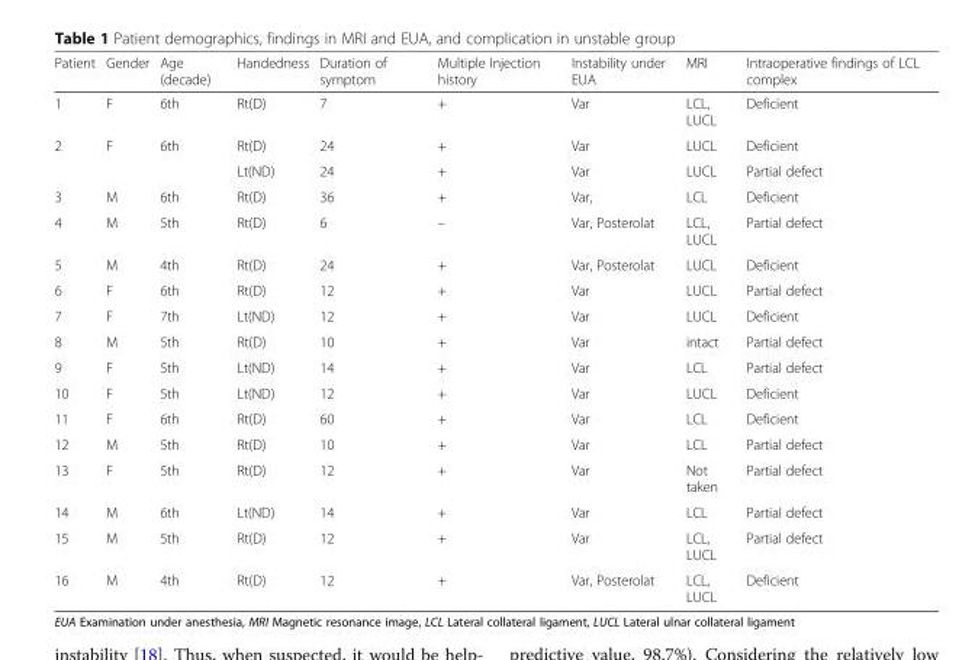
<table><thead><tr><td>Patient</td><td>Gender</td><td>Age (decade)</td><td>Handedness</td><td>Duration of symptom</td><td>Multiple Injection history</td><td>Instability under EUA</td><td>MRI</td><td>Intraoperative findings of LCL complex</td></tr></thead><tbody><tr><td>1</td><td>F</td><td>6th</td><td>Rt(D)</td><td>7</td><td>+</td><td>Var</td><td>LCL, LUCL</td><td>Deficient</td></tr><tr><td rowspan="2">2</td><td rowspan="2">F</td><td rowspan="2">6th</td><td>Rt(D)</td><td>24</td><td>+</td><td>Var</td><td>LUCL</td><td>Deficient</td></tr><tr><td>Lt(ND)</td><td>24</td><td>+</td><td>Var</td><td>LUCL</td><td>Partial defect</td></tr><tr><td>3</td><td>M</td><td>6th</td><td>Rt(D)</td><td>36</td><td>+</td><td>Var,</td><td>LCL</td><td>Deficient</td></tr><tr><td>4</td><td>M</td><td>5th</td><td>Rt(D)</td><td>6</td><td>–</td><td>Var, Posterolat</td><td>LCL, LUCL</td><td>Partial defect</td></tr><tr><td>5</td><td>M</td><td>4th</td><td>Rt(D)</td><td>24</td><td>+</td><td>Var, Posterolat</td><td>LUCL</td><td>Deficient</td></tr><tr><td>6</td><td>F</td><td>6th</td><td>Rt(D)</td><td>12</td><td>+</td><td>Var</td><td>LUCL</td><td>Partial defect</td></tr><tr><td>7</td><td>F</td><td>7th</td><td>Lt(ND)</td><td>12</td><td>+</td><td>Var</td><td>LUCL</td><td>Deficient</td></tr><tr><td>8</td><td>M</td><td>5th</td><td>Rt(D)</td><td>10</td><td>+</td><td>Var</td><td>intact</td><td>Partial defect</td></tr><tr><td>9</td><td>F</td><td>5th</td><td>Lt(ND)</td><td>14</td><td>+</td><td>Var</td><td>LCL</td><td>Partial defect</td></tr><tr><td>10</td><td>F</td><td>5th</td><td>Lt(ND)</td><td>12</td><td>+</td><td>Var</td><td>LUCL</td><td>Deficient</td></tr><tr><td>11</td><td>F</td><td>6th</td><td>Rt(D)</td><td>60</td><td>+</td><td>Var</td><td>LCL</td><td>Deficient</td></tr><tr><td>12</td><td>M</td><td>5th</td><td>Rt(D)</td><td>10</td><td>+</td><td>Var</td><td>LCL</td><td>Partial defect</td></tr><tr><td>13</td><td>F</td><td>5th</td><td>Rt(D)</td><td>12</td><td>+</td><td>Var</td><td>Not taken</td><td>Partial defect</td></tr><tr><td>14</td><td>M</td><td>6th</td><td>Lt(ND)</td><td>14</td><td>+</td><td>Var</td><td>LCL</td><td>Partial defect</td></tr><tr><td>15</td><td>M</td><td>5th</td><td>Rt(D)</td><td>12</td><td>+</td><td>Var</td><td>LCL, LUCL</td><td>Partial defect</td></tr><tr><td>16</td><td>M</td><td>4th</td><td>Rt(D)</td><td>12</td><td>+</td><td>Var, Posterolat</td><td>LCL, LUCL</td><td>Deficient</td></tr></tbody></table>